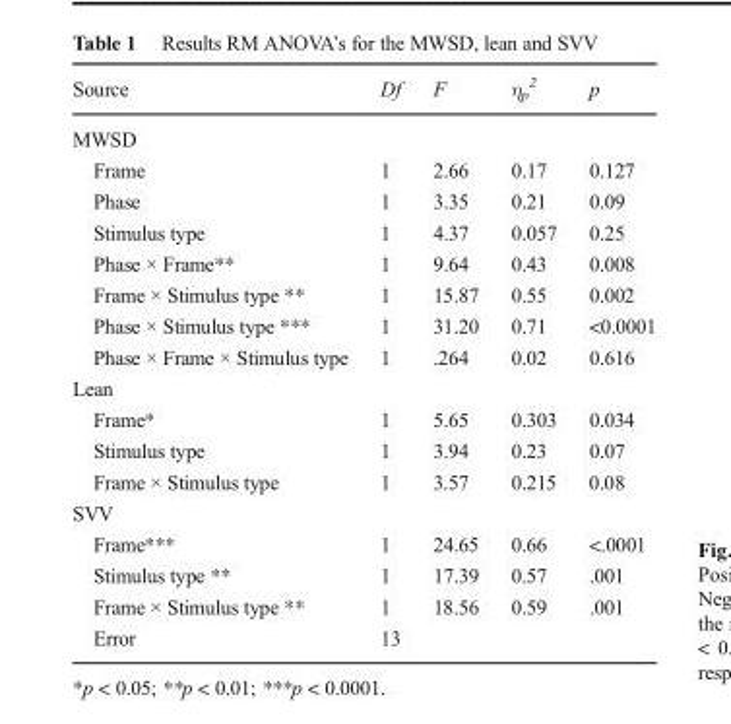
<table><thead><tr><td>Source</td><td>Df</td><td>F</td><td>η<sub>p</sub> <sup>2</sup></td><td>p</td></tr></thead><tbody><tr><td colspan="5">MWSD</td></tr><tr><td>Frame</td><td>1</td><td>2.66</td><td>0.17</td><td>0.127</td></tr><tr><td>Phase</td><td>1</td><td>3.35</td><td>0.21</td><td>0.09</td></tr><tr><td>Stimulus type</td><td>1</td><td>4.37</td><td>0.057</td><td>0.25</td></tr><tr><td>Phase × Frame**</td><td>1</td><td>9.64</td><td>0.43</td><td>0.008</td></tr><tr><td>Frame × Stimulus type **</td><td>1</td><td>15.87</td><td>0.55</td><td>0.002</td></tr><tr><td>Phase × Stimulus type ***</td><td>1</td><td>31.20</td><td>0.71</td><td>&lt;0.0001</td></tr><tr><td>Phase × Frame × Stimulus type</td><td>1</td><td>.264</td><td>0.02</td><td>0.616</td></tr><tr><td colspan="5">Lean</td></tr><tr><td>Frame*</td><td>1</td><td>5.65</td><td>0.303</td><td>0.034</td></tr><tr><td>Stimulus type</td><td>1</td><td>3.94</td><td>0.23</td><td>0.07</td></tr><tr><td>Frame × Stimulus type</td><td>1</td><td>3.57</td><td>0.215</td><td>0.08</td></tr><tr><td colspan="5">SVV</td></tr><tr><td>Frame***</td><td>1</td><td>24.65</td><td>0.66</td><td>&lt;.0001</td></tr><tr><td>Stimulus type **</td><td>1</td><td>17.39</td><td>0.57</td><td>.001</td></tr><tr><td>Frame × Stimulus type **</td><td>1</td><td>18.56</td><td>0.59</td><td>.001</td></tr><tr><td>Error</td><td>13</td><td></td><td></td><td></td></tr></tbody></table>